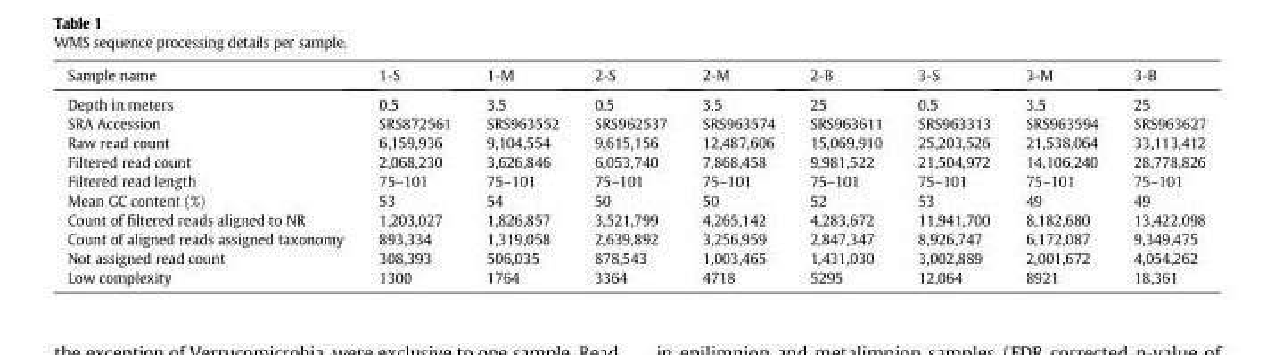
<table><thead><tr><td>Sample name</td><td>1-S</td><td>1-M</td><td>2-S</td><td>2-M</td><td>2-B</td><td>3-S</td><td>3-M</td><td>3-B</td></tr></thead><tbody><tr><td>Depth in meters</td><td>0.5</td><td>3.5</td><td>0.5</td><td>3.5</td><td>25</td><td>0.5</td><td>3.5</td><td>25</td></tr><tr><td>SRA Accession</td><td>SRS872561</td><td>SRS963552</td><td>SRS962537</td><td>SRS963574</td><td>SRS963611</td><td>SRS963313</td><td>SRS963594</td><td>SRS963627</td></tr><tr><td>Raw read count</td><td>6,159,936</td><td>9,104,554</td><td>9,615,156</td><td>12,487,606</td><td>15,069,910</td><td>25,203,526</td><td>21,538,064</td><td>33,113,412</td></tr><tr><td>Filtered read count</td><td>2,068,230</td><td>3,626,846</td><td>6,053,740</td><td>7,868,458</td><td>9,981,522</td><td>21,504,972</td><td>14,106,240</td><td>28,778,826</td></tr><tr><td>Filtered read length</td><td>75–101</td><td>75–101</td><td>75–101</td><td>75–101</td><td>75–101</td><td>75–101</td><td>75–101</td><td>75–101</td></tr><tr><td>Mean GC content (%)</td><td>53</td><td>54</td><td>50</td><td>50</td><td>52</td><td>53</td><td>49</td><td>49</td></tr><tr><td>Count of filtered reads aligned to NR</td><td>1,203,027</td><td>1,826,857</td><td>3,521,799</td><td>4,265,142</td><td>4,283,672</td><td>11,941,700</td><td>8,182,680</td><td>13,422,098</td></tr><tr><td>Count of aligned reads assigned taxonomy</td><td>893,334</td><td>1,319,058</td><td>2,639,892</td><td>3,256,959</td><td>2,847,347</td><td>8,926,747</td><td>6,172,087</td><td>9,349,475</td></tr><tr><td>Not assigned read count</td><td>308,393</td><td>506,035</td><td>878,543</td><td>1,003,465</td><td>1,431,030</td><td>3,002,889</td><td>2,001,672</td><td>4,054,262</td></tr><tr><td>Low complexity</td><td>1300</td><td>1764</td><td>3364</td><td>4718</td><td>5295</td><td>12,064</td><td>8921</td><td>18,361</td></tr></tbody></table>